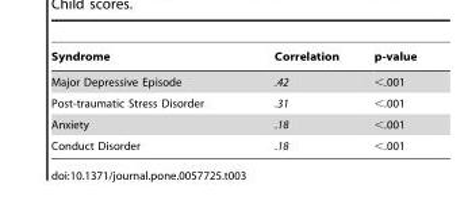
<table><thead><tr><td>Syndrome</td><td>Correlation</td><td>p-value</td></tr></thead><tbody><tr><td>Major Depressive Episode</td><td>.42</td><td>&lt;.001</td></tr><tr><td>Post-traumatic Stress Disorder</td><td>.31</td><td>&lt;.001</td></tr><tr><td>Anxiety</td><td>.18</td><td>&lt;.001</td></tr><tr><td>Conduct Disorder</td><td>.18</td><td>&lt;.001</td></tr></tbody></table>